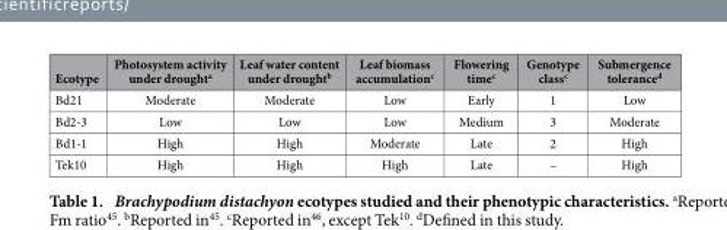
<table><thead><tr><td>Ecotype</td><td>Photosystem activity under drought<sup>a</sup></td><td>Leaf water content under drought<sup>b</sup></td><td>Leaf biomass accumulation<sup>c</sup></td><td>Flowering time<sup>c</sup></td><td>Genotype class<sup>c</sup></td><td>Submergence tolerance<sup>d</sup></td></tr></thead><tbody><tr><td>Bd21</td><td>Moderate</td><td>Moderate</td><td>Low</td><td>Early</td><td>1</td><td>Low</td></tr><tr><td>Bd2-3</td><td>Low</td><td>Low</td><td>Low</td><td>Medium</td><td>3</td><td>Moderate</td></tr><tr><td>Bd1-1</td><td>High</td><td>High</td><td>Moderate</td><td>Late</td><td>2</td><td>High</td></tr><tr><td>Tek10</td><td>High</td><td>High</td><td>High</td><td>Late</td><td>–</td><td>High</td></tr></tbody></table>